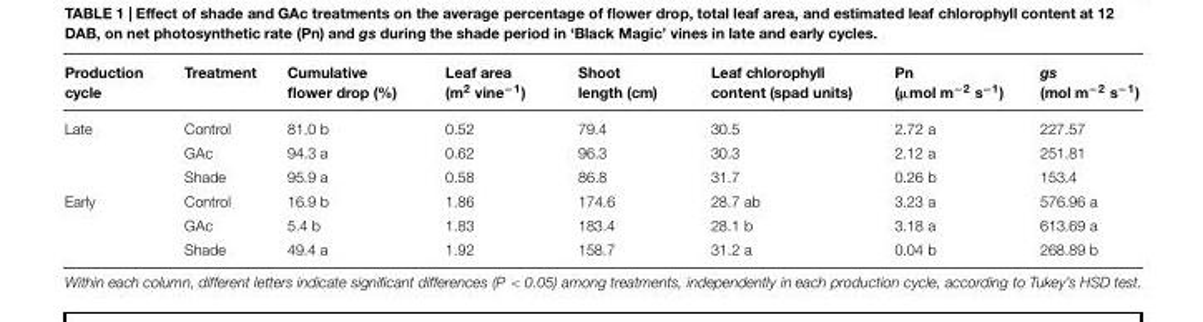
<table><thead><tr><td>Production cycle</td><td>Treatment</td><td>Cumulative flower drop (%)</td><td>Leaf area (m<sup>2</sup> vine<sup>−1</sup>)</td><td>Shoot length (cm)</td><td>Leaf chlorophyll content (spad units)</td><td>Pn (µmol m<sup>−2</sup> s<sup>−1</sup>)</td><td>gs (mol m<sup>−2</sup> s<sup>−1</sup>)</td></tr></thead><tbody><tr><td rowspan="3">Late</td><td>Control</td><td>81.0 b</td><td>0.52</td><td>79.4</td><td>30.5</td><td>2.72 a</td><td>227.57</td></tr><tr><td>GAc</td><td>94.3 a</td><td>0.62</td><td>96.3</td><td>30.3</td><td>2.12 a</td><td>251.81</td></tr><tr><td>Shade</td><td>95.9 a</td><td>0.58</td><td>86.8</td><td>31.7</td><td>0.26 b</td><td>153.4</td></tr><tr><td rowspan="3">Early</td><td>Control</td><td>16.9 b</td><td>1.86</td><td>174.6</td><td>28.7 ab</td><td>3.23 a</td><td>576.96 a</td></tr><tr><td>GAc</td><td>5.4 b</td><td>1.83</td><td>183.4</td><td>28.1 b</td><td>3.18 a</td><td>613.69 a</td></tr><tr><td>Shade</td><td>49.4 a</td><td>1.92</td><td>158.7</td><td>31.2 a</td><td>0.04 b</td><td>268.89 b</td></tr></tbody></table>